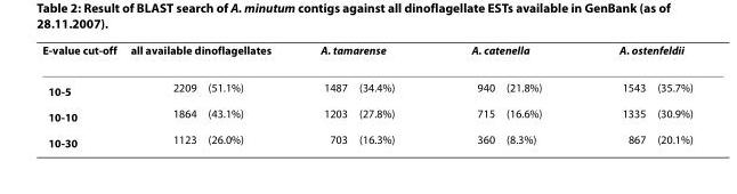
<table><thead><tr><td rowspan="2">E-value cut-off 10<sup>-5</sup></td><td colspan="2">all available dinoflagellates</td><td colspan="2">A. tamarense</td><td colspan="2">A. catenella</td><td colspan="2">A. ostenfeldii</td></tr><tr><td>2209</td><td>(51.1%)</td><td>1487</td><td>(34.4%)</td><td>940</td><td>(21.8%)</td><td>1543</td><td>(35.7%)</td></tr></thead><tbody><tr><td>10<sup>-10</sup></td><td>1864</td><td>(43.1%)</td><td>1203</td><td>(27.8%)</td><td>715</td><td>(16.6%)</td><td>1335</td><td>(30.9%)</td></tr><tr><td>10<sup>-30</sup></td><td>1123</td><td>(26.0%)</td><td>703</td><td>(16.3%)</td><td>360</td><td>(8.3%)</td><td>867</td><td>(20.1%)</td></tr></tbody></table>